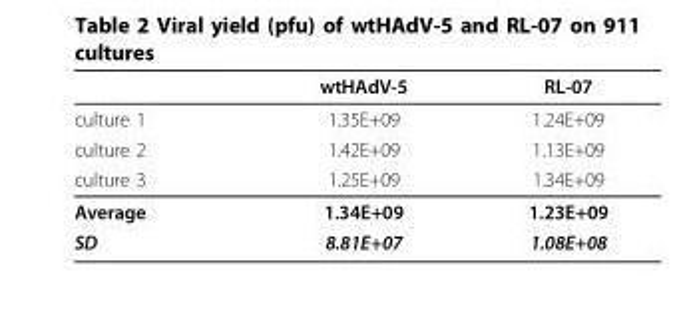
<table><thead><tr><td></td><td>wtHAdV-5</td><td>RL-07</td></tr></thead><tbody><tr><td>culture 1</td><td>1.35E+09</td><td>1.24E+09</td></tr><tr><td>culture 2</td><td>1.42E+09</td><td>1.13E+09</td></tr><tr><td>culture 3</td><td>1.25E+09</td><td>1.34E+09</td></tr><tr><td>Average</td><td>1.34E+09</td><td>1.23E+09</td></tr><tr><td>SD</td><td>8.81E+07</td><td>1.08E+08</td></tr></tbody></table>